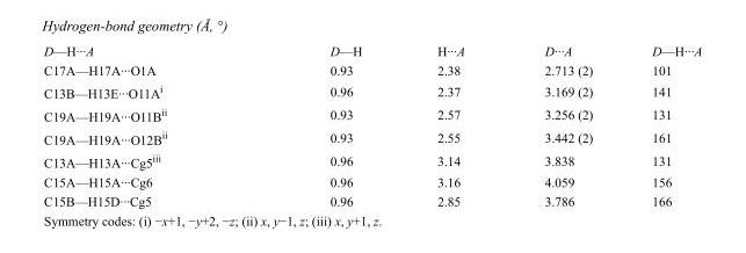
<table><tbody><tr><td>D—H···A</td><td>D—H</td><td>H···A</td><td>D···A</td><td>D—H···A</td></tr><tr><td>C17A—H17A···O1A</td><td>0.93</td><td>2.38</td><td>2.713 (2)</td><td>101</td></tr><tr><td>C13B—H13E···O11A<sup>i</sup></td><td>0.96</td><td>2.37</td><td>3.169 (2)</td><td>141</td></tr><tr><td>C19A—H19A···O11B<sup>ii</sup></td><td>0.93</td><td>2.57</td><td>3.256 (2)</td><td>131</td></tr><tr><td>C19A—H19A···O12B<sup>ii</sup></td><td>0.93</td><td>2.55</td><td>3.442 (2)</td><td>161</td></tr><tr><td>C13A—H13A···Cg5<sup>iii</sup></td><td>0.96</td><td>3.14</td><td>3.838</td><td>131</td></tr><tr><td>C15A—H15A···Cg6</td><td>0.96</td><td>3.16</td><td>4.059</td><td>156</td></tr><tr><td>C15B—H15D···Cg5</td><td>0.96</td><td>2.85</td><td>3.786</td><td>166</td></tr></tbody></table>